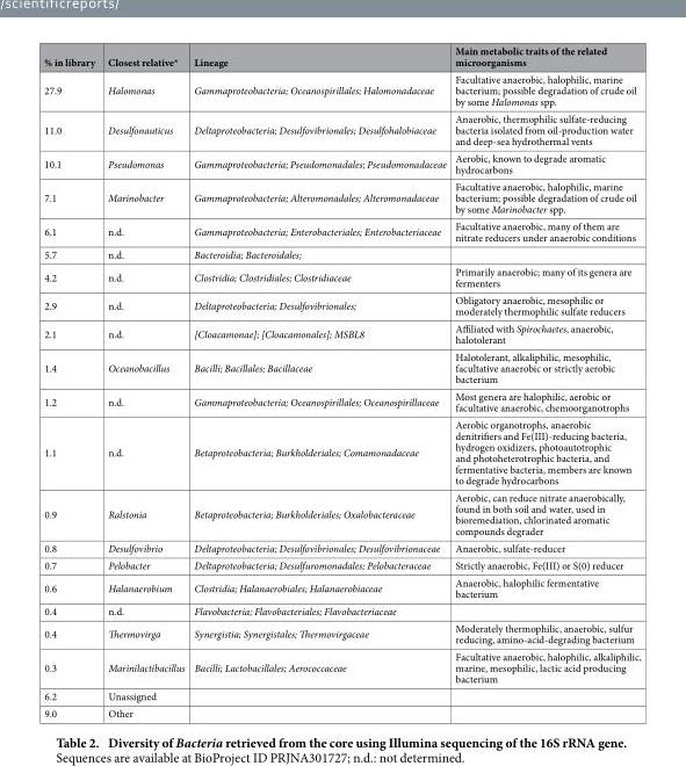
<table><thead><tr><td>% in library</td><td>Closest relative*</td><td>Lineage</td><td>Main metabolic traits of the related microorganisms</td></tr></thead><tbody><tr><td>27.9</td><td>Halomonas</td><td>Gammaproteobacteria; Oceanospirillales; Halomonadaceae</td><td>Facultative anaerobic, halophilic, marine bacterium; possible degradation of crude oil by some Halomonas spp.</td></tr><tr><td>11.0</td><td>Desulfonauticus</td><td>Deltaproteobacteria; Desulfovibrionales; Desulfohalobiaceae</td><td>Anaerobic, thermophilic sulfate-reducing bacteria isolated from oil-production water and deep-sea hydrothermal vents</td></tr><tr><td>10.1</td><td>Pseudomonas</td><td>Gammaproteobacteria; Pseudomonadales; Pseudomonadaceae</td><td>Aerobic, known to degrade aromatic hydrocarbons</td></tr><tr><td>7.1</td><td>Marinobacter</td><td>Gammaproteobacteria; Alteromonadales; Alteromonadaceae</td><td>Facultative anaerobic, halophilic, marine bacterium; possible degradation of crude oil by some Marinobacter spp.</td></tr><tr><td>6.1</td><td>n.d.</td><td>Gammaproteobacteria; Enterobacteriales; Enterobacteriaceae</td><td>Facultative anaerobic, many of them are nitrate reducers under anaerobic conditions</td></tr><tr><td>5.7</td><td>n.d.</td><td>Bacteroidia; Bacteroidales;</td><td></td></tr><tr><td>4.2</td><td>n.d.</td><td>Clostridia; Clostridiales; Clostridiaceae</td><td>Primarily anaerobic; many of its genera are fermenters</td></tr><tr><td>2.9</td><td>n.d.</td><td>Deltaproteobacteria; Desulfovibrionales;</td><td>Obligatory anaerobic, mesophilic or moderately thermophilic sulfate reducers</td></tr><tr><td>2.1</td><td>n.d.</td><td>[Cloacamonae]; [Cloacamonales]; MSBL8</td><td>Affiliated with Spirochaetes, anaerobic, halotolerant</td></tr><tr><td>1.4</td><td>Oceanobacillus</td><td>Bacilli; Bacillales; Bacillaceae</td><td>Halotolerant, alkaliphilic, mesophilic, facultative anaerobic or strictly aerobic bacterium</td></tr><tr><td>1.2</td><td>n.d.</td><td>Gammaproteobacteria; Oceanospirillales; Oceanospirillaceae</td><td>Most genera are halophilic, aerobic or facultative anaerobic, chemoorganotrophs</td></tr><tr><td>1.1</td><td>n.d.</td><td>Betaproteobacteria; Burkholderiales; Comamonadaceae</td><td>Aerobic organotrophs, anaerobic denitrifiers and Fe(III)-reducing bacteria, hydrogen oxidizers, photoautotrophic and photoheterotrophic bacteria, and fermentative bacteria, members are known to degrade hydrocarbons</td></tr><tr><td>0.9</td><td>Ralstonia</td><td>Betaproteobacteria; Burkholderiales; Oxalobacteraceae</td><td>Aerobic, can reduce nitrate anaerobically, found in both soil and water, used in bioremediation, chlorinated aromatic compounds degrader</td></tr><tr><td>0.8</td><td>Desulfovibrio</td><td>Deltaproteobacteria; Desulfovibrionales; Desulfovibrionaceae</td><td>Anaerobic, sulfate-reducer</td></tr><tr><td>0.7</td><td>Pelobacter</td><td>Deltaproteobacteria; Desulfuromonadales; Pelobacteraceae</td><td>Strictly anaerobic, Fe(III) or S(0) reducer</td></tr><tr><td>0.6</td><td>Halanaerobium</td><td>Clostridia; Halanaerobiales; Halanaerobiaceae</td><td>Anaerobic, halophilic fermentative bacterium</td></tr><tr><td>0.4</td><td>n.d.</td><td>Flavobacteria; Flavobacteriales; Flavobacteriaceae</td><td></td></tr><tr><td>0.4</td><td>Thermovirga</td><td>Synergistia; Synergistales; Thermovirgaceae</td><td>Moderately thermophilic, anaerobic, sulfur reducing, amino-acid-degrading bacterium</td></tr><tr><td>0.3</td><td>Marinilactibacillus</td><td>Bacilli; Lactobacillales; Aerococcaceae</td><td>Facultative anaerobic, halophilic, alkaliphilic, marine, mesophilic, lactic acid producing bacterium</td></tr><tr><td>6.2</td><td>Unassigned</td><td></td><td></td></tr><tr><td>9.0</td><td>Other</td><td></td><td></td></tr></tbody></table>